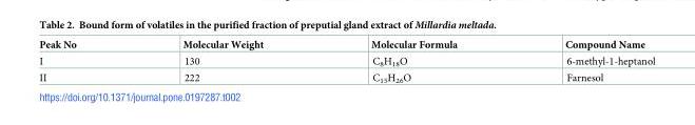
<table><thead><tr><td>Peak No</td><td>Molecular Weight</td><td>Molecular Formula</td><td>Compound Name</td></tr></thead><tbody><tr><td>I</td><td>130</td><td>C<sub>8</sub>H<sub>18</sub>O</td><td>6-methyl-1-heptanol</td></tr><tr><td>II</td><td>222</td><td>C<sub>15</sub>H<sub>26</sub>O</td><td>Farnesol</td></tr></tbody></table>